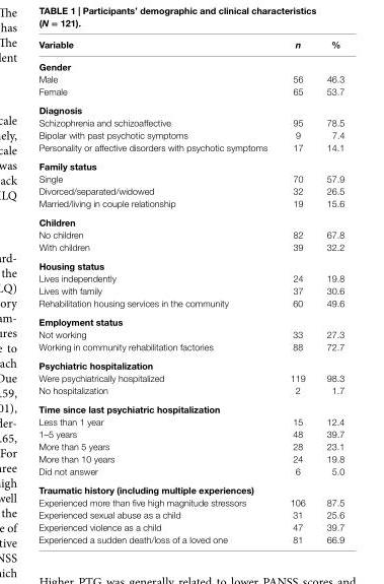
<table><thead><tr><td>Variable</td><td>n</td><td>%</td></tr></thead><tbody><tr><td colspan="3">gender</td></tr><tr><td>Male</td><td>56</td><td>46.3</td></tr><tr><td>Female</td><td>65</td><td>53.7</td></tr><tr><td colspan="3">Diagnosis</td></tr><tr><td>Schizophrenia and schizoaffective</td><td>95</td><td>78.5</td></tr><tr><td>Bipolar with past psychotic symptoms</td><td>9</td><td>7.4</td></tr><tr><td>Personality or affective disorders with psychotic symptoms</td><td>17</td><td>14.1</td></tr><tr><td colspan="3">Family status</td></tr><tr><td>Single</td><td>70</td><td>57.9</td></tr><tr><td>Divorced/separated/widowed</td><td>32</td><td>26.5</td></tr><tr><td>Married/living in couple relationship</td><td>19</td><td>15.6</td></tr><tr><td colspan="3">children</td></tr><tr><td>No children</td><td>82</td><td>67.8</td></tr><tr><td>With children</td><td>39</td><td>32.2</td></tr><tr><td colspan="3">housing status</td></tr><tr><td>Lives independently</td><td>24</td><td>19.8</td></tr><tr><td>Lives with family</td><td>37</td><td>30.6</td></tr><tr><td>Rehabilitation housing services in the community</td><td>60</td><td>49.6</td></tr><tr><td colspan="3">employment status</td></tr><tr><td>Not working</td><td>33</td><td>27.3</td></tr><tr><td>Working in community rehabilitation factories</td><td>88</td><td>72.7</td></tr><tr><td colspan="3">Psychiatric hospitalization</td></tr><tr><td>Were psychiatrically hospitalized</td><td>119</td><td>98.3</td></tr><tr><td>No hospitalization</td><td>2</td><td>1.7</td></tr><tr><td colspan="3">Time since last psychiatric hospitalization</td></tr><tr><td>Less than 1 year</td><td>15</td><td>12.4</td></tr><tr><td>1–5 years</td><td>48</td><td>39.7</td></tr><tr><td>More than 5 years</td><td>28</td><td>23.1</td></tr><tr><td>More than 10 years</td><td>24</td><td>19.8</td></tr><tr><td>Did not answer</td><td>6</td><td>5.0</td></tr><tr><td colspan="3">Traumatic history (including multiple experiences)</td></tr><tr><td>Experienced more than five high magnitude stressors</td><td>106</td><td>87.5</td></tr><tr><td>Experienced sexual abuse as a child</td><td>31</td><td>25.6</td></tr><tr><td>Experienced violence as a child</td><td>47</td><td>39.7</td></tr><tr><td>Experienced a sudden death/loss of a loved one</td><td>81</td><td>66.9</td></tr></tbody></table>